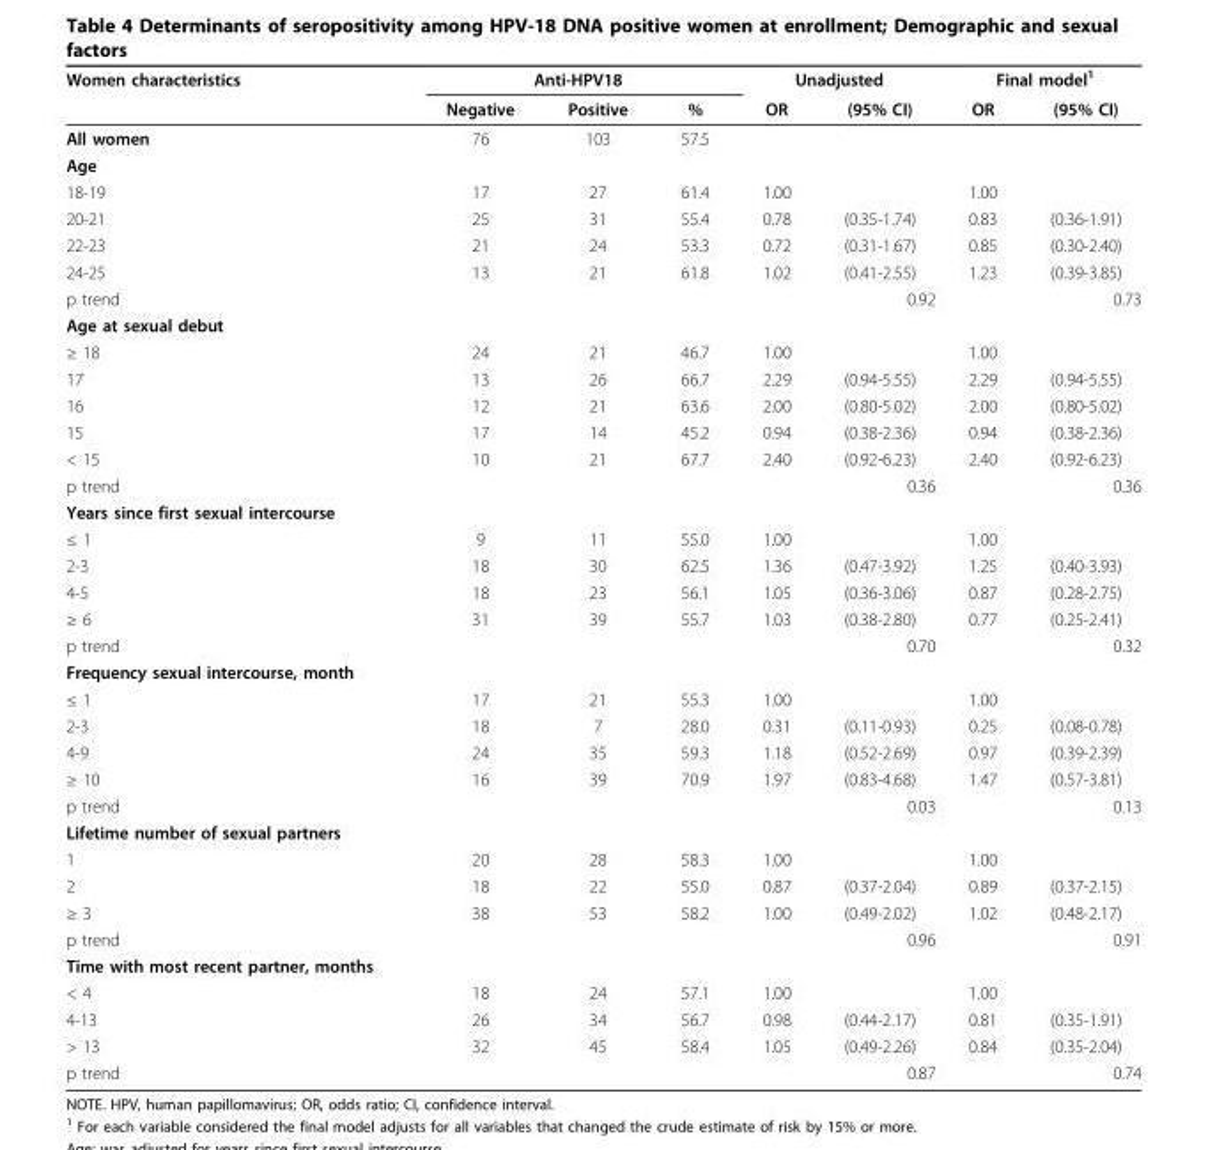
<table><thead><tr><td rowspan="2">Women characteristics</td><td colspan="3">Anti-HPV18</td><td colspan="2">Unadjusted</td><td colspan="2">Final model<sup>1</sup></td></tr><tr><td>Negative</td><td>Positive</td><td>%</td><td>OR</td><td>(95% CI)</td><td>OR</td><td>(95% CI)</td></tr></thead><tbody><tr><td>All women</td><td>76</td><td>103</td><td>57.5</td><td></td><td></td><td></td><td></td></tr><tr><td colspan="8">Age</td></tr><tr><td>18-19</td><td>17</td><td>27</td><td>61.4</td><td>1.00</td><td></td><td>1.00</td><td></td></tr><tr><td>20-21</td><td>25</td><td>31</td><td>55.4</td><td>0.78</td><td>(0.35-1.74)</td><td>0.83</td><td>(0.36-1.91)</td></tr><tr><td>22-23</td><td>21</td><td>24</td><td>53.3</td><td>0.72</td><td>(0.31-1.67)</td><td>0.85</td><td>(0.30-2.40)</td></tr><tr><td>24-25</td><td>13</td><td>21</td><td>61.8</td><td>1.02</td><td>(0.41-2.55)</td><td>1.23</td><td>(0.39-3.85)</td></tr><tr><td>p trend</td><td></td><td></td><td></td><td></td><td>0.92</td><td></td><td>0.73</td></tr><tr><td colspan="8">Age at sexual debut</td></tr><tr><td>≥ 18</td><td>24</td><td>21</td><td>46.7</td><td>1.00</td><td></td><td>1.00</td><td></td></tr><tr><td>17</td><td>13</td><td>26</td><td>66.7</td><td>2.29</td><td>(0.94-5.55)</td><td>2.29</td><td>(0.94-5.55)</td></tr><tr><td>16</td><td>12</td><td>21</td><td>63.6</td><td>2.00</td><td>(0.80-5.02)</td><td>2.00</td><td>(0.80-5.02)</td></tr><tr><td>15</td><td>17</td><td>14</td><td>45.2</td><td>0.94</td><td>(0.38-2.36)</td><td>0.94</td><td>(0.38-2.36)</td></tr><tr><td>&lt; 15</td><td>10</td><td>21</td><td>67.7</td><td>2.40</td><td>(0.92-6.23)</td><td>2.40</td><td>(0.92-6.23)</td></tr><tr><td>p trend</td><td></td><td></td><td></td><td></td><td>0.36</td><td></td><td>0.36</td></tr><tr><td colspan="8">Years since first sexual intercourse</td></tr><tr><td>≤ 1</td><td>9</td><td>11</td><td>55.0</td><td>1.00</td><td></td><td>1.00</td><td></td></tr><tr><td>2-3</td><td>18</td><td>30</td><td>62.5</td><td>1.36</td><td>(0.47-3.92)</td><td>1.25</td><td>(0.40-3.93)</td></tr><tr><td>4-5</td><td>18</td><td>23</td><td>56.1</td><td>1.05</td><td>(0.36-3.06)</td><td>0.87</td><td>(0.28-2.75)</td></tr><tr><td>≥ 6</td><td>31</td><td>39</td><td>55.7</td><td>1.03</td><td>(0.38-2.80)</td><td>0.77</td><td>(0.25-2.41)</td></tr><tr><td>p trend</td><td></td><td></td><td></td><td></td><td>0.70</td><td></td><td>0.32</td></tr><tr><td colspan="8">Frequency sexual intercourse, month</td></tr><tr><td>≤ 1</td><td>17</td><td>21</td><td>55.3</td><td>1.00</td><td></td><td>1.00</td><td></td></tr><tr><td>2-3</td><td>18</td><td>7</td><td>28.0</td><td>0.31</td><td>(0.11-0.93)</td><td>0.25</td><td>(0.08-0.78)</td></tr><tr><td>4-9</td><td>24</td><td>35</td><td>59.3</td><td>1.18</td><td>(0.52-2.69)</td><td>0.97</td><td>(0.39-2.39)</td></tr><tr><td>≥ 10</td><td>16</td><td>39</td><td>70.9</td><td>1.97</td><td>(0.83-4.68)</td><td>1.47</td><td>(0.57-3.81)</td></tr><tr><td>p trend</td><td></td><td></td><td></td><td></td><td>0.03</td><td></td><td>0.13</td></tr><tr><td colspan="8">Lifetime number of sexual partners</td></tr><tr><td>1</td><td>20</td><td>28</td><td>58.3</td><td>1.00</td><td></td><td>1.00</td><td></td></tr><tr><td>2</td><td>18</td><td>22</td><td>55.0</td><td>0.87</td><td>(0.37-2.04)</td><td>0.89</td><td>(0.37-2.15)</td></tr><tr><td>≥ 3</td><td>38</td><td>53</td><td>58.2</td><td>1.00</td><td>(0.49-2.02)</td><td>1.02</td><td>(0.48-2.17)</td></tr><tr><td>p trend</td><td></td><td></td><td></td><td></td><td>0.96</td><td></td><td>0.91</td></tr><tr><td colspan="8">Time with most recent partner, months</td></tr><tr><td>&lt; 4</td><td>18</td><td>24</td><td>57.1</td><td>1.00</td><td></td><td>1.00</td><td></td></tr><tr><td>4-13</td><td>26</td><td>34</td><td>56.7</td><td>0.98</td><td>(0.44-2.17)</td><td>0.81</td><td>(0.35-1.91)</td></tr><tr><td>&gt; 13</td><td>32</td><td>45</td><td>58.4</td><td>1.05</td><td>(0.49-2.26)</td><td>0.84</td><td>(0.35-2.04)</td></tr><tr><td>p trend</td><td></td><td></td><td></td><td></td><td>0.87</td><td></td><td>0.74</td></tr></tbody></table>